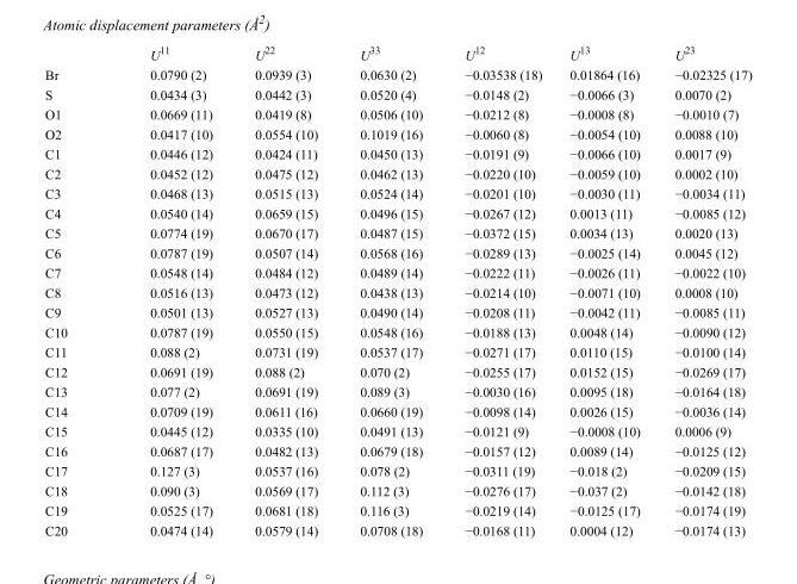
<table><thead><tr><td></td><td>U<sup>11</sup></td><td>U<sup>22</sup></td><td>U<sup>33</sup></td><td>U<sup>12</sup></td><td>U<sup>13</sup></td><td>U<sup>23</sup></td></tr></thead><tbody><tr><td>Br</td><td>0.0790 (2)</td><td>0.0939 (3)</td><td>0.0630 (2)</td><td>−0.03538 (18)</td><td>0.01864 (16)</td><td>−0.02325 (17)</td></tr><tr><td>S</td><td>0.0434 (3)</td><td>0.0442 (3)</td><td>0.0520 (4)</td><td>−0.0148 (2)</td><td>−0.0066 (3)</td><td>0.0070 (2)</td></tr><tr><td>O1</td><td>0.0669 (11)</td><td>0.0419 (8)</td><td>0.0506 (10)</td><td>−0.0212 (8)</td><td>−0.0008 (8)</td><td>−0.0010 (7)</td></tr><tr><td>O2</td><td>0.0417 (10)</td><td>0.0554 (10)</td><td>0.1019 (16)</td><td>−0.0060 (8)</td><td>−0.0054 (10)</td><td>0.0088 (10)</td></tr><tr><td>C1</td><td>0.0446 (12)</td><td>0.0424 (11)</td><td>0.0450 (13)</td><td>−0.0191 (9)</td><td>−0.0066 (10)</td><td>0.0017 (9)</td></tr><tr><td>C2</td><td>0.0452 (12)</td><td>0.0475 (12)</td><td>0.0462 (13)</td><td>−0.0220 (10)</td><td>−0.0059 (10)</td><td>0.0002 (10)</td></tr><tr><td>C3</td><td>0.0468 (13)</td><td>0.0515 (13)</td><td>0.0524 (14)</td><td>−0.0201 (10)</td><td>−0.0030 (11)</td><td>−0.0034 (11)</td></tr><tr><td>C4</td><td>0.0540 (14)</td><td>0.0659 (15)</td><td>0.0496 (15)</td><td>−0.0267 (12)</td><td>0.0013 (11)</td><td>−0.0085 (12)</td></tr><tr><td>C5</td><td>0.0774 (19)</td><td>0.0670 (17)</td><td>0.0487 (15)</td><td>−0.0372 (15)</td><td>0.0034 (13)</td><td>0.0020 (13)</td></tr><tr><td>C6</td><td>0.0787 (19)</td><td>0.0507 (14)</td><td>0.0568 (16)</td><td>−0.0289 (13)</td><td>−0.0025 (14)</td><td>0.0045 (12)</td></tr><tr><td>C7</td><td>0.0548 (14)</td><td>0.0484 (12)</td><td>0.0489 (14)</td><td>−0.0222 (11)</td><td>−0.0026 (11)</td><td>−0.0022 (10)</td></tr><tr><td>C8</td><td>0.0516 (13)</td><td>0.0473 (12)</td><td>0.0438 (13)</td><td>−0.0214 (10)</td><td>−0.0071 (10)</td><td>0.0008 (10)</td></tr><tr><td>C9</td><td>0.0501 (13)</td><td>0.0527 (13)</td><td>0.0490 (14)</td><td>−0.0208 (11)</td><td>−0.0042 (11)</td><td>−0.0085 (11)</td></tr><tr><td>C10</td><td>0.0787 (19)</td><td>0.0550 (15)</td><td>0.0548 (16)</td><td>−0.0188 (13)</td><td>0.0048 (14)</td><td>−0.0090 (12)</td></tr><tr><td>C11</td><td>0.088 (2)</td><td>0.0731 (19)</td><td>0.0537 (17)</td><td>−0.0271 (17)</td><td>0.0110 (15)</td><td>−0.0100 (14)</td></tr><tr><td>C12</td><td>0.0691 (19)</td><td>0.088 (2)</td><td>0.070 (2)</td><td>−0.0255 (17)</td><td>0.0152 (15)</td><td>−0.0269 (17)</td></tr><tr><td>C13</td><td>0.077 (2)</td><td>0.0691 (19)</td><td>0.089 (3)</td><td>−0.0030 (16)</td><td>0.0095 (18)</td><td>−0.0164 (18)</td></tr><tr><td>C14</td><td>0.0709 (19)</td><td>0.0611 (16)</td><td>0.0660 (19)</td><td>−0.0098 (14)</td><td>0.0026 (15)</td><td>−0.0036 (14)</td></tr><tr><td>C15</td><td>0.0445 (12)</td><td>0.0335 (10)</td><td>0.0491 (13)</td><td>−0.0121 (9)</td><td>−0.0008 (10)</td><td>0.0006 (9)</td></tr><tr><td>C16</td><td>0.0687 (17)</td><td>0.0482 (13)</td><td>0.0679 (18)</td><td>−0.0157 (12)</td><td>0.0089 (14)</td><td>−0.0125 (12)</td></tr><tr><td>C17</td><td>0.127 (3)</td><td>0.0537 (16)</td><td>0.078 (2)</td><td>−0.0311 (19)</td><td>−0.018 (2)</td><td>−0.0209 (15)</td></tr><tr><td>C18</td><td>0.090 (3)</td><td>0.0569 (17)</td><td>0.112 (3)</td><td>−0.0276 (17)</td><td>−0.037 (2)</td><td>−0.0142 (18)</td></tr><tr><td>C19</td><td>0.0525 (17)</td><td>0.0681 (18)</td><td>0.116 (3)</td><td>−0.0219 (14)</td><td>−0.0125 (17)</td><td>−0.0174 (19)</td></tr><tr><td>C20</td><td>0.0474 (14)</td><td>0.0579 (14)</td><td>0.0708 (18)</td><td>−0.0168 (11)</td><td>0.0004 (12)</td><td>−0.0174 (13)</td></tr></tbody></table>